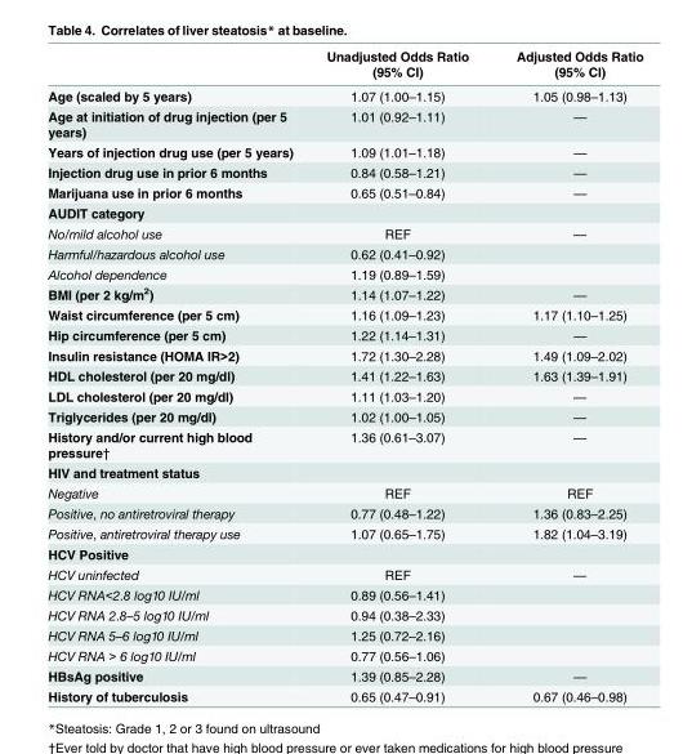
<table><thead><tr><td></td><td>Unadjusted Odds Ratio (95% CI)</td><td>Adjusted Odds Ratio (95% CI)</td></tr></thead><tbody><tr><td>Age (scaled by 5 years)</td><td>1.07 (1.00–1.15)</td><td>1.05 (0.98–1.13)</td></tr><tr><td>Age at initiation of drug injection (per 5 years)</td><td>1.01 (0.92–1.11)</td><td>—</td></tr><tr><td>Years of injection drug use (per 5 years)</td><td>1.09 (1.01–1.18)</td><td>—</td></tr><tr><td>Injection drug use in prior 6 months</td><td>0.84 (0.58–1.21)</td><td>—</td></tr><tr><td>Marijuana use in prior 6 months</td><td>0.65 (0.51–0.84)</td><td>—</td></tr><tr><td colspan="3">AUDIT category</td></tr><tr><td>No/mild alcohol use</td><td>REF</td><td>—</td></tr><tr><td>Harmful/hazardous alcohol use</td><td>0.62 (0.41–0.92)</td><td></td></tr><tr><td>Alcohol dependence</td><td>1.19 (0.89–1.59)</td><td></td></tr><tr><td>BMI (per 2 kg/m<sup>2</sup>)</td><td>1.14 (1.07–1.22)</td><td>—</td></tr><tr><td>Waist circumference (per 5 cm)</td><td>1.16 (1.09–1.23)</td><td>1.17 (1.10–1.25)</td></tr><tr><td>Hip circumference (per 5 cm)</td><td>1.22 (1.14–1.31)</td><td>—</td></tr><tr><td>Insulin resistance (HOMA IR&gt;2)</td><td>1.72 (1.30–2.28)</td><td>1.49 (1.09–2.02)</td></tr><tr><td>HDL cholesterol (per 20 mg/dl)</td><td>1.41 (1.22–1.63)</td><td>1.63 (1.39–1.91)</td></tr><tr><td>LDL cholesterol (per 20 mg/dl)</td><td>1.11 (1.03–1.20)</td><td>—</td></tr><tr><td>Triglycerides (per 20 mg/dl)</td><td>1.02 (1.00–1.05)</td><td>—</td></tr><tr><td>History and/or current high blood pressure†</td><td>1.36 (0.61–3.07)</td><td>—</td></tr><tr><td colspan="3">HIV and treatment status</td></tr><tr><td>Negative</td><td>REF</td><td>REF</td></tr><tr><td>Positive, no antiretroviral therapy</td><td>0.77 (0.48–1.22)</td><td>1.36 (0.83–2.25)</td></tr><tr><td>Positive, antiretroviral therapy use</td><td>1.07 (0.65–1.75)</td><td>1.82 (1.04–3.19)</td></tr><tr><td colspan="3">HCV Positive</td></tr><tr><td>HCV uninfected</td><td>REF</td><td>—</td></tr><tr><td>HCV RNA&lt;2.8 log10 IU/ml</td><td>0.89 (0.56–1.41)</td><td></td></tr><tr><td>HCV RNA 2.8–5 log10 IU/ml</td><td>0.94 (0.38–2.33)</td><td></td></tr><tr><td>HCV RNA 5–6 log10 IU/ml</td><td>1.25 (0.72–2.16)</td><td></td></tr><tr><td>HCV RNA &gt; 6 log10 IU/ml</td><td>0.77 (0.56–1.06)</td><td></td></tr><tr><td>HBsAg positive</td><td>1.39 (0.85–2.28)</td><td>—</td></tr><tr><td>History of tuberculosis</td><td>0.65 (0.47–0.91)</td><td>0.67 (0.46–0.98)</td></tr></tbody></table>